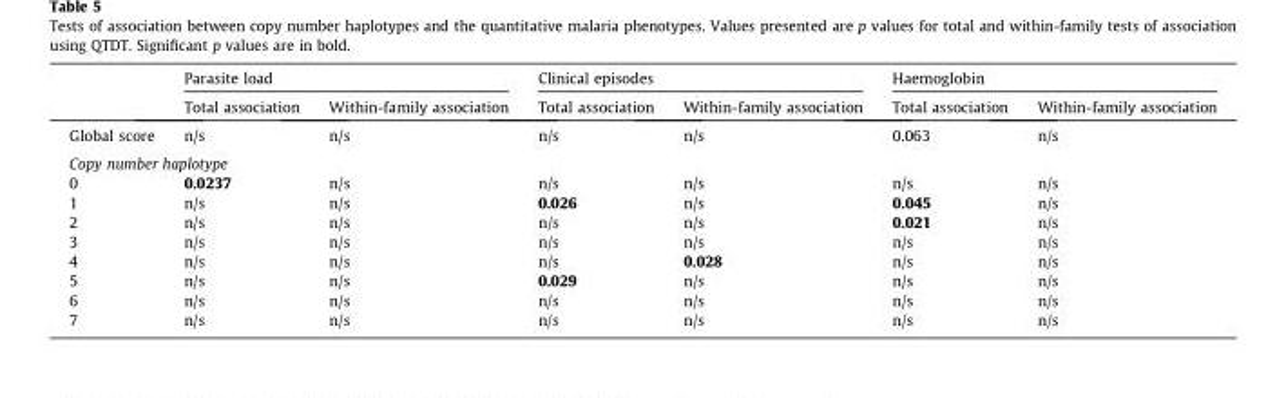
<table><thead><tr><td rowspan="2"></td><td colspan="2">Parasite load</td><td colspan="2">Clinical episodes</td><td colspan="2">Haemoglobin</td></tr><tr><td>Total association</td><td>Within-family association</td><td>Total association</td><td>Within-family association</td><td>Total association</td><td>Within-family association</td></tr></thead><tbody><tr><td>Global score</td><td>n/s</td><td>n/s</td><td>n/s</td><td>n/s</td><td>0.063</td><td>n/s</td></tr><tr><td colspan="7">Copy number haplotype</td></tr><tr><td>0</td><td>0.0237</td><td>n/s</td><td>n/s</td><td>n/s</td><td>n/s</td><td>n/s</td></tr><tr><td>1</td><td>n/s</td><td>n/s</td><td>0.026</td><td>n/s</td><td>0.045</td><td>n/s</td></tr><tr><td>2</td><td>n/s</td><td>n/s</td><td>n/s</td><td>n/s</td><td>0.021</td><td>n/s</td></tr><tr><td>3</td><td>n/s</td><td>n/s</td><td>n/s</td><td>n/s</td><td>n/s</td><td>n/s</td></tr><tr><td>4</td><td>n/s</td><td>n/s</td><td>n/s</td><td>0.028</td><td>n/s</td><td>n/s</td></tr><tr><td>5</td><td>n/s</td><td>n/s</td><td>0.029</td><td>n/s</td><td>n/s</td><td>n/s</td></tr><tr><td>6</td><td>n/s</td><td>n/s</td><td>n/s</td><td>n/s</td><td>n/s</td><td>n/s</td></tr><tr><td>7</td><td>n/s</td><td>n/s</td><td>n/s</td><td>n/s</td><td>n/s</td><td>n/s</td></tr></tbody></table>